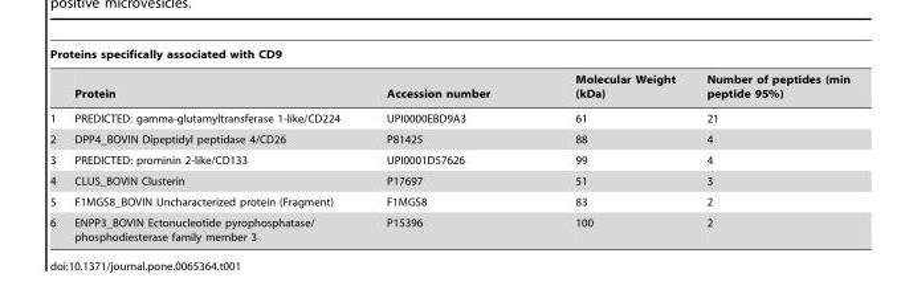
<table><thead><tr><td colspan="5">Proteins specifically associated with CD9</td></tr><tr><td></td><td>Protein</td><td>Accession number</td><td>Molecular Weight (kDa)</td><td>Number of peptides (min peptide 95%)</td></tr></thead><tbody><tr><td>1</td><td>PREDICTED: gamma-glutamyltransferase 1-like/CD224</td><td>UPI0000EBD9A3</td><td>61</td><td>21</td></tr><tr><td>2</td><td>DPP4_BOVIN Dipeptidyl peptidase 4/CD26</td><td>P81425</td><td>88</td><td>4</td></tr><tr><td>3</td><td>PREDICTED: prominin 2-like/CD133</td><td>UPI0001D57626</td><td>99</td><td>4</td></tr><tr><td>4</td><td>CLUS_BOVIN Clusterin</td><td>P17697</td><td>51</td><td>3</td></tr><tr><td>5</td><td>F1MGS8_BOVIN Uncharacterized protein (Fragment)</td><td>F1MGS8</td><td>83</td><td>2</td></tr><tr><td>6</td><td>ENPP3_BOVIN Ectonucleotide pyrophosphatase/ phosphodiesterase family member 3</td><td>P15396</td><td>100</td><td>2</td></tr></tbody></table>